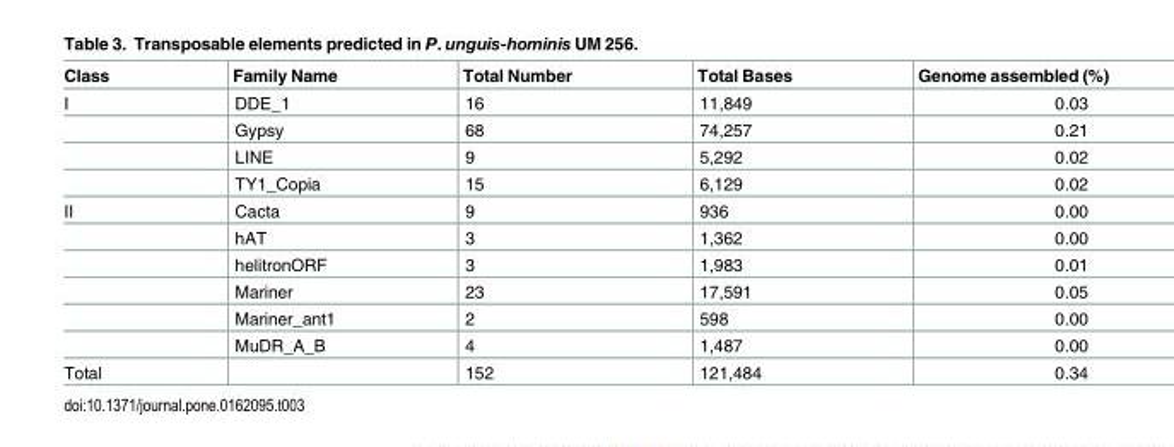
<table><thead><tr><td>Class</td><td>Family Name</td><td>Total Number</td><td>Total Bases</td><td>Genome assembled (%)</td></tr></thead><tbody><tr><td rowspan="4">I</td><td>DDE_1</td><td>16</td><td>11,849</td><td>0.03</td></tr><tr><td>Gypsy</td><td>68</td><td>74,257</td><td>0.21</td></tr><tr><td>LINE</td><td>9</td><td>5,292</td><td>0.02</td></tr><tr><td>TY1_Copia</td><td>15</td><td>6,129</td><td>0.02</td></tr><tr><td rowspan="6">II</td><td>Cacta</td><td>9</td><td>936</td><td>0.00</td></tr><tr><td>hAT</td><td>3</td><td>1,362</td><td>0.00</td></tr><tr><td>helitronORF</td><td>3</td><td>1,983</td><td>0.01</td></tr><tr><td>Mariner</td><td>23</td><td>17,591</td><td>0.05</td></tr><tr><td>Mariner_ant1</td><td>2</td><td>598</td><td>0.00</td></tr><tr><td>MuDR_A_B</td><td>4</td><td>1,487</td><td>0.00</td></tr><tr><td>Total</td><td></td><td>152</td><td>121,484</td><td>0.34</td></tr></tbody></table>